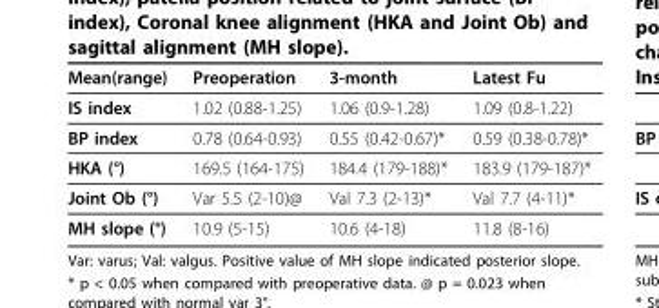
<table><thead><tr><td>Mean(range)</td><td>Preoperation</td><td>3-month</td><td>Latest Fu</td></tr></thead><tbody><tr><td>IS index</td><td>1.02 (0.88-1.25)</td><td>1.06 (0.9-1.28)</td><td>1.09 (0.8-1.22)</td></tr><tr><td>BP index</td><td>0.78 (0.64-0.93)</td><td>0.55 (0.42-0.67)*</td><td>0.59 (0.38-0.78)*</td></tr><tr><td>HKA (°)</td><td>169.5 (164-175)</td><td>184.4 (179-188)*</td><td>183.9 (179-187)*</td></tr><tr><td>Joint Ob (°)</td><td>Var 5.5 (2-10)@</td><td>Val 7.3 (2-13)*</td><td>Val 7.7 (4-11)*</td></tr><tr><td>MH slope (°)</td><td>10.9 (5-15)</td><td>10.6 (4-18)</td><td>11.8 (8-16)</td></tr></tbody></table>